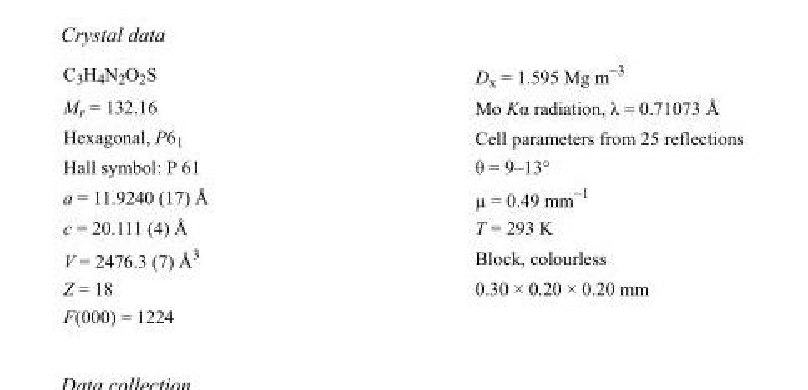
<table><tbody><tr><td>C<sub>3</sub>H<sub>4</sub>N<sub>2</sub>O<sub>2</sub>S</td><td>D<sub>x</sub> = 1.595 Mg m<sup>−3</sup></td></tr><tr><td>M<sub>r</sub> = 132.16</td><td>Mo Kα radiation, λ = 0.71073 Å</td></tr><tr><td>Hexagonal, P6<sub>1</sub></td><td>Cell parameters from 25 reflections</td></tr><tr><td>Hall symbol: P 61</td><td>θ = 9–13°</td></tr><tr><td>a = 11.9240 (17) Å</td><td>µ = 0.49 mm<sup>−1</sup></td></tr><tr><td>c = 20.111 (4) Å</td><td>T = 293 K</td></tr><tr><td>V = 2476.3 (7) Å<sup>3</sup></td><td>Block, colourless</td></tr><tr><td>Z = 18</td><td>0.30 × 0.20 × 0.20 mm</td></tr><tr><td>F(000) = 1224</td><td></td></tr></tbody></table>